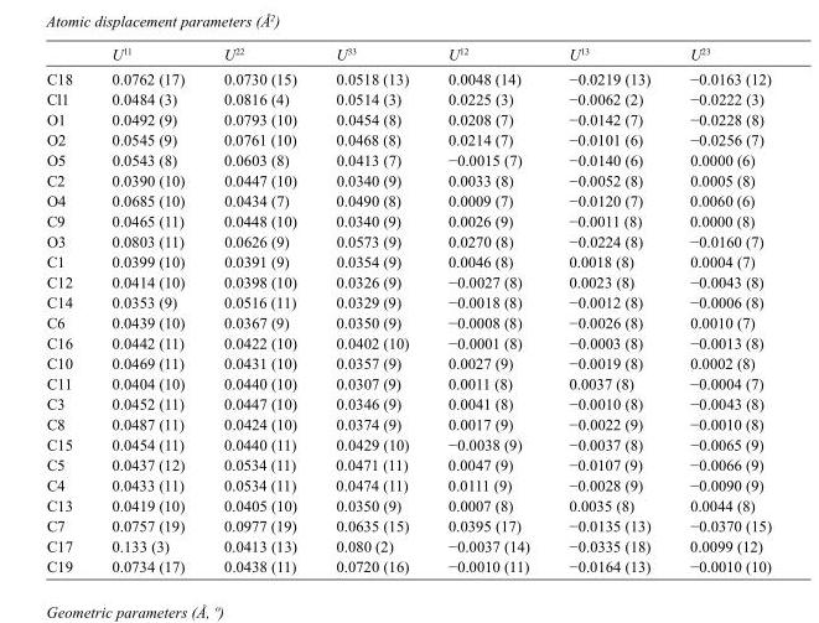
<table><thead><tr><td></td><td>U<sup>11</sup></td><td>U<sup>22</sup></td><td>U<sup>33</sup></td><td>U<sup>12</sup></td><td>U<sup>13</sup></td><td>U<sup>23</sup></td></tr></thead><tbody><tr><td>C18</td><td>0.0762 (17)</td><td>0.0730 (15)</td><td>0.0518 (13)</td><td>0.0048 (14)</td><td>−0.0219 (13)</td><td>−0.0163 (12)</td></tr><tr><td>Cl1</td><td>0.0484 (3)</td><td>0.0816 (4)</td><td>0.0514 (3)</td><td>0.0225 (3)</td><td>−0.0062 (2)</td><td>−0.0222 (3)</td></tr><tr><td>O1</td><td>0.0492 (9)</td><td>0.0793 (10)</td><td>0.0454 (8)</td><td>0.0208 (7)</td><td>−0.0142 (7)</td><td>−0.0228 (8)</td></tr><tr><td>O2</td><td>0.0545 (9)</td><td>0.0761 (10)</td><td>0.0468 (8)</td><td>0.0214 (7)</td><td>−0.0101 (6)</td><td>−0.0256 (7)</td></tr><tr><td>O5</td><td>0.0543 (8)</td><td>0.0603 (8)</td><td>0.0413 (7)</td><td>−0.0015 (7)</td><td>−0.0140 (6)</td><td>0.0000 (6)</td></tr><tr><td>C2</td><td>0.0390 (10)</td><td>0.0447 (10)</td><td>0.0340 (9)</td><td>0.0033 (8)</td><td>−0.0052 (8)</td><td>0.0005 (8)</td></tr><tr><td>O4</td><td>0.0685 (10)</td><td>0.0434 (7)</td><td>0.0490 (8)</td><td>0.0009 (7)</td><td>−0.0120 (7)</td><td>0.0060 (6)</td></tr><tr><td>C9</td><td>0.0465 (11)</td><td>0.0448 (10)</td><td>0.0340 (9)</td><td>0.0026 (9)</td><td>−0.0011 (8)</td><td>0.0000 (8)</td></tr><tr><td>O3</td><td>0.0803 (11)</td><td>0.0626 (9)</td><td>0.0573 (9)</td><td>0.0270 (8)</td><td>−0.0224 (8)</td><td>−0.0160 (7)</td></tr><tr><td>C1</td><td>0.0399 (10)</td><td>0.0391 (9)</td><td>0.0354 (9)</td><td>0.0046 (8)</td><td>0.0018 (8)</td><td>0.0004 (7)</td></tr><tr><td>C12</td><td>0.0414 (10)</td><td>0.0398 (10)</td><td>0.0326 (9)</td><td>−0.0027 (8)</td><td>0.0023 (8)</td><td>−0.0043 (8)</td></tr><tr><td>C14</td><td>0.0353 (9)</td><td>0.0516 (11)</td><td>0.0329 (9)</td><td>−0.0018 (8)</td><td>−0.0012 (8)</td><td>−0.0006 (8)</td></tr><tr><td>C6</td><td>0.0439 (10)</td><td>0.0367 (9)</td><td>0.0350 (9)</td><td>−0.0008 (8)</td><td>−0.0026 (8)</td><td>0.0010 (7)</td></tr><tr><td>C16</td><td>0.0442 (11)</td><td>0.0422 (10)</td><td>0.0402 (10)</td><td>−0.0001 (8)</td><td>−0.0003 (8)</td><td>−0.0013 (8)</td></tr><tr><td>C10</td><td>0.0469 (11)</td><td>0.0431 (10)</td><td>0.0357 (9)</td><td>0.0027 (9)</td><td>−0.0019 (8)</td><td>0.0002 (8)</td></tr><tr><td>C11</td><td>0.0404 (10)</td><td>0.0440 (10)</td><td>0.0307 (9)</td><td>0.0011 (8)</td><td>0.0037 (8)</td><td>−0.0004 (7)</td></tr><tr><td>C3</td><td>0.0452 (11)</td><td>0.0447 (10)</td><td>0.0346 (9)</td><td>0.0041 (8)</td><td>−0.0010 (8)</td><td>−0.0043 (8)</td></tr><tr><td>C8</td><td>0.0487 (11)</td><td>0.0424 (10)</td><td>0.0374 (9)</td><td>0.0017 (9)</td><td>−0.0022 (9)</td><td>−0.0010 (8)</td></tr><tr><td>C15</td><td>0.0454 (11)</td><td>0.0440 (11)</td><td>0.0429 (10)</td><td>−0.0038 (9)</td><td>−0.0037 (8)</td><td>−0.0065 (9)</td></tr><tr><td>C5</td><td>0.0437 (12)</td><td>0.0534 (11)</td><td>0.0471 (11)</td><td>0.0047 (9)</td><td>−0.0107 (9)</td><td>−0.0066 (9)</td></tr><tr><td>C4</td><td>0.0433 (11)</td><td>0.0534 (11)</td><td>0.0474 (11)</td><td>0.0111 (9)</td><td>−0.0028 (9)</td><td>−0.0090 (9)</td></tr><tr><td>C13</td><td>0.0419 (10)</td><td>0.0405 (10)</td><td>0.0350 (9)</td><td>0.0007 (8)</td><td>0.0035 (8)</td><td>0.0044 (8)</td></tr><tr><td>C7</td><td>0.0757 (19)</td><td>0.0977 (19)</td><td>0.0635 (15)</td><td>0.0395 (17)</td><td>−0.0135 (13)</td><td>−0.0370 (15)</td></tr><tr><td>C17</td><td>0.133 (3)</td><td>0.0413 (13)</td><td>0.080 (2)</td><td>−0.0037 (14)</td><td>−0.0335 (18)</td><td>0.0099 (12)</td></tr><tr><td>C19</td><td>0.0734 (17)</td><td>0.0438 (11)</td><td>0.0720 (16)</td><td>−0.0010 (11)</td><td>−0.0164 (13)</td><td>−0.0010 (10)</td></tr></tbody></table>